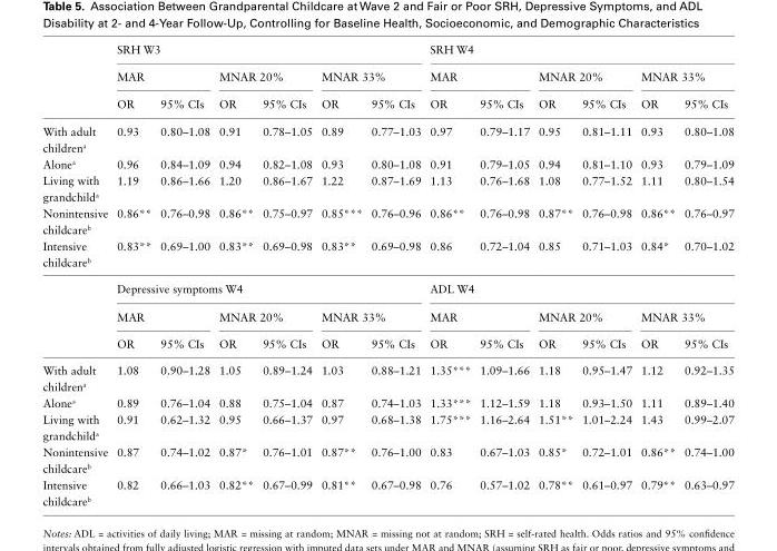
<table><thead><tr><td rowspan="3"></td><td colspan="6">SRH W3</td><td colspan="6">SRH W4</td></tr><tr><td colspan="2">MAR</td><td colspan="2">MNAR 20%</td><td colspan="2">MNAR 33%</td><td colspan="2">MAR</td><td colspan="2">MNAR 20%</td><td colspan="2">MNAR 33%</td></tr><tr><td>OR</td><td>95% CIs</td><td>OR</td><td>95% CIs</td><td>OR</td><td>95% CIs</td><td>OR</td><td>95% CIs</td><td>OR</td><td>95% CIs</td><td>OR</td><td>95% CIs</td></tr></thead><tbody><tr><td>With adult children<sup>a</sup></td><td>0.93</td><td>0.80–1.08</td><td>0.91</td><td>0.78–1.05</td><td>0.89</td><td>0.77–1.03</td><td>0.97</td><td>0.79–1.17</td><td>0.95</td><td>0.81–1.11</td><td>0.93</td><td>0.80–1.08</td></tr><tr><td>Alone<sup>a</sup></td><td>0.96</td><td>0.84–1.09</td><td>0.94</td><td>0.82–1.08</td><td>0.93</td><td>0.80–1.08</td><td>0.91</td><td>0.79–1.05</td><td>0.94</td><td>0.81–1.10</td><td>0.93</td><td>0.79–1.09</td></tr><tr><td>Living with grandchild<sup>a</sup></td><td>1.19</td><td>0.86–1.66</td><td>1.20</td><td>0.86–1.67</td><td>1.22</td><td>0.87–1.69</td><td>1.13</td><td>0.76–1.68</td><td>1.08</td><td>0.77–1.52</td><td>1.11</td><td>0.80–1.54</td></tr><tr><td>Nonintensive childcare<sup>b</sup></td><td>0.86**</td><td>0.76–0.98</td><td>0.86**</td><td>0.75–0.97</td><td>0.85***</td><td>0.76–0.96</td><td>0.86**</td><td>0.76–0.98</td><td>0.87**</td><td>0.76–0.98</td><td>0.86**</td><td>0.76–0.97</td></tr><tr><td rowspan="4">Intensive childcare<sup>b</sup></td><td>0.83**</td><td>0.69–1.00</td><td>0.83**</td><td>0.69–0.98</td><td>0.83**</td><td>0.69–0.98</td><td>0.86</td><td>0.72–1.04</td><td>0.85</td><td>0.71–1.03</td><td>0.84*</td><td>0.70–1.02</td></tr><tr><td colspan="6">Depressive symptoms W4</td><td colspan="6">ADL W4</td></tr><tr><td colspan="2">MAR</td><td colspan="2">MNAR 20%</td><td colspan="2">MNAR 33%</td><td colspan="2">MAR</td><td colspan="2">MNAR 20%</td><td colspan="2">MNAR 33%</td></tr><tr><td>OR</td><td>95% CIs</td><td>OR</td><td>95% CIs</td><td>OR</td><td>95% CIs</td><td>OR</td><td>95% CIs</td><td>OR</td><td>95% CIs</td><td>OR</td><td>95% CIs</td></tr><tr><td>With adult children<sup>a</sup></td><td>1.08</td><td>0.90–1.28</td><td>1.05</td><td>0.89–1.24</td><td>1.03</td><td>0.88–1.21</td><td>1.35***</td><td>1.09–1.66</td><td>1.18</td><td>0.95–1.47</td><td>1.12</td><td>0.92–1.35</td></tr><tr><td>Alone<sup>a</sup></td><td>0.89</td><td>0.76–1.04</td><td>0.88</td><td>0.75–1.04</td><td>0.87</td><td>0.74–1.03</td><td>1.33***</td><td>1.12–1.59</td><td>1.18</td><td>0.93–1.50</td><td>1.11</td><td>0.89–1.40</td></tr><tr><td>Living with grandchild<sup>a</sup></td><td>0.91</td><td>0.62–1.32</td><td>0.95</td><td>0.66–1.37</td><td>0.97</td><td>0.68–1.38</td><td>1.75***</td><td>1.16–2.64</td><td>1.51**</td><td>1.01–2.24</td><td>1.43</td><td>0.99–2.07</td></tr><tr><td>Nonintensive childcare<sup>b</sup></td><td>0.87</td><td>0.74–1.02</td><td>0.87*</td><td>0.76–1.01</td><td>0.87**</td><td>0.76–1.00</td><td>0.83</td><td>0.67–1.03</td><td>0.85*</td><td>0.72–1.01</td><td>0.86**</td><td>0.74–1.00</td></tr><tr><td>Intensive childcare<sup>b</sup></td><td>0.82</td><td>0.66–1.03</td><td>0.82**</td><td>0.67–0.99</td><td>0.81**</td><td>0.67–0.98</td><td>0.76</td><td>0.57–1.02</td><td>0.78**</td><td>0.61–0.97</td><td>0.79**</td><td>0.63–0.97</td></tr></tbody></table>